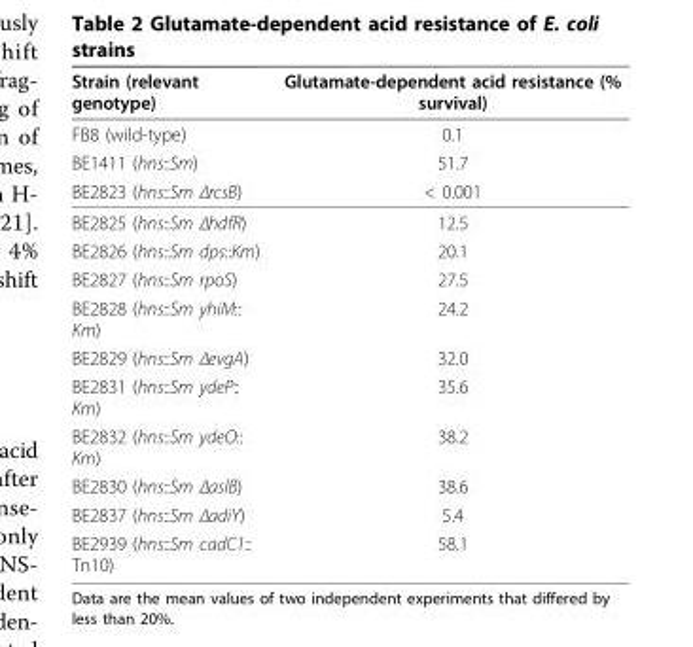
<table><thead><tr><td>Strain (relevant genotype)</td><td>Glutamate-dependent acid resistance (% survival)</td></tr></thead><tbody><tr><td>FB8 (wild-type)</td><td>0.1</td></tr><tr><td>BE1411 (hns::Sm)</td><td>51.7</td></tr><tr><td>BE2823 (hns::Sm ΔrcsB)</td><td>&lt; 0.001</td></tr><tr><td>BE2825 (hns::Sm ΔhdfR)</td><td>12.5</td></tr><tr><td>BE2826 (hns::Sm dps::Km)</td><td>20.1</td></tr><tr><td>BE2827 (hns::Sm rpoS)</td><td>27.5</td></tr><tr><td>BE2828 (hns::Sm yhiM:: Km)</td><td>24.2</td></tr><tr><td>BE2829 (hns::Sm ΔevgA)</td><td>32.0</td></tr><tr><td>BE2831 (hns::Sm ydeP:: Km)</td><td>35.6</td></tr><tr><td>BE2832 (hns::Sm ydeO:: Km)</td><td>38.2</td></tr><tr><td>BE2830 (hns::Sm ΔaslB)</td><td>38.6</td></tr><tr><td>BE2837 (hns::Sm ΔadiY)</td><td>5.4</td></tr><tr><td>BE2939 (hns::Sm cadC1:: Tn10)</td><td>58.1</td></tr></tbody></table>